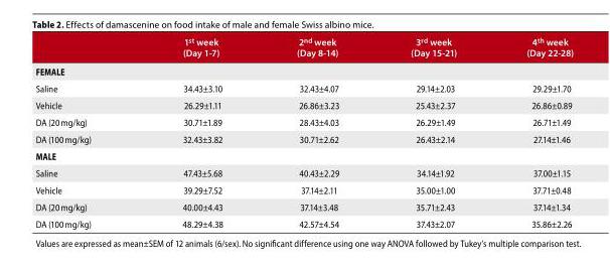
<table><thead><tr><td></td><td>1st week (Day 1-7)</td><td>2nd week (Day 8-14)</td><td>3rd week (Day 15-21)</td><td>4th week (Day 22-28)</td></tr></thead><tbody><tr><td colspan="5">FEMALE</td></tr><tr><td>Saline</td><td>34.43±3.10</td><td>32.43±4.07</td><td>29.14±2.03</td><td>29.29±1.70</td></tr><tr><td>Vehicle</td><td>26.29±1.11</td><td>26.86±3.23</td><td>25.43±2.37</td><td>26.86±0.89</td></tr><tr><td>DA (20 mg/kg)</td><td>30.71±1.89</td><td>28.43±4.03</td><td>26.29±1.49</td><td>26.71±1.49</td></tr><tr><td>DA (100 mg/kg)</td><td>32.43±3.82</td><td>30.71±2.62</td><td>26.43±2.14</td><td>27.14±1.46</td></tr><tr><td colspan="5">MALE</td></tr><tr><td>Saline</td><td>47.43±5.68</td><td>40.43±2.29</td><td>34.14±1.92</td><td>37.00±1.15</td></tr><tr><td>Vehicle</td><td>39.29±7.52</td><td>37.14±2.11</td><td>35.00±1.00</td><td>37.71±0.48</td></tr><tr><td>DA (20 mg/kg)</td><td>40.00±4.43</td><td>37.14±3.48</td><td>35.71±2.43</td><td>37.14±1.34</td></tr><tr><td>DA (100 mg/kg)</td><td>48.29±4.38</td><td>42.57±4.54</td><td>37.43±2.07</td><td>35.86±2.26</td></tr></tbody></table>